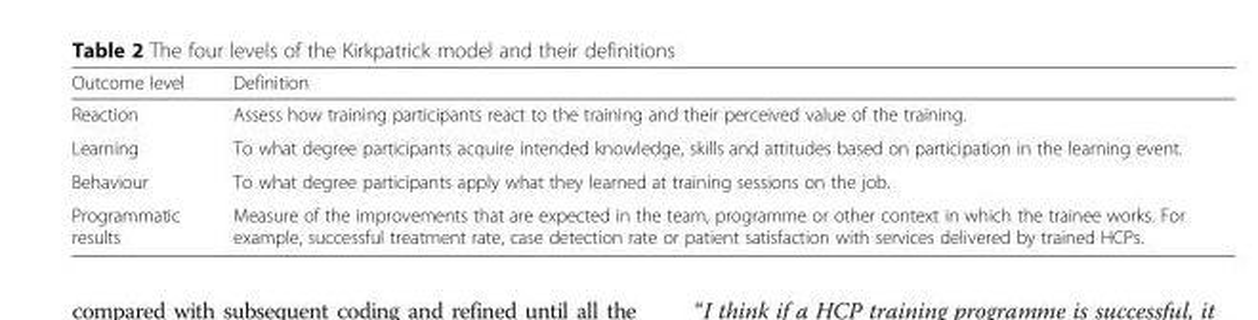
<table><thead><tr><td>Outcome level</td><td>Definition</td></tr></thead><tbody><tr><td>Reaction</td><td>Assess how training participants react to the training and their perceived value of the training.</td></tr><tr><td>Learning</td><td>To what degree participants acquire intended knowledge, skills and attitudes based on participation in the learning event.</td></tr><tr><td>Behaviour</td><td>To what degree participants apply what they learned at training sessions on the job.</td></tr><tr><td>Programmatic results</td><td>Measure of the improvements that are expected in the team, programme or other context in which the trainee works. For example, successful treatment rate, case detection rate or patient satisfaction with services delivered by trained HCPs.</td></tr></tbody></table>